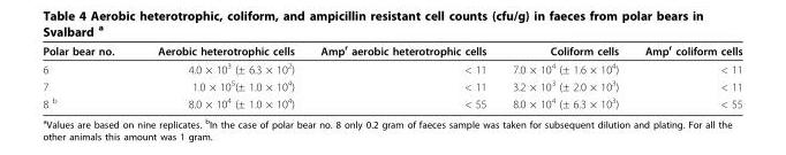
<table><thead><tr><td>Polar bear no.</td><td>Aerobic heterotrophic cells</td><td>Amp<sup>r</sup> aerobic heterotrophic cells</td><td>Coliform cells</td><td>Amp<sup>r</sup> coliform cells</td></tr></thead><tbody><tr><td>6</td><td>4.0 × 10<sup>3</sup> (± 6.3 × 10<sup>2</sup>)</td><td>&lt; 11</td><td>7.0 × 10<sup>4</sup> (± 1.6 × 10<sup>4</sup>)</td><td>&lt; 11</td></tr><tr><td>7</td><td>1.0 × 10<sup>5</sup>(± 1.0 × 10<sup>4</sup>)</td><td>&lt; 11</td><td>3.2 × 10<sup>3</sup> (± 2.0 × 10<sup>3</sup>)</td><td>&lt; 11</td></tr><tr><td>8 <sup>b</sup></td><td>8.0 × 10<sup>4</sup> (± 1.0 × 10<sup>4</sup>)</td><td>&lt; 55</td><td>8.0 × 10<sup>4</sup> (± 6.3 × 10<sup>3</sup>)</td><td>&lt; 55</td></tr></tbody></table>